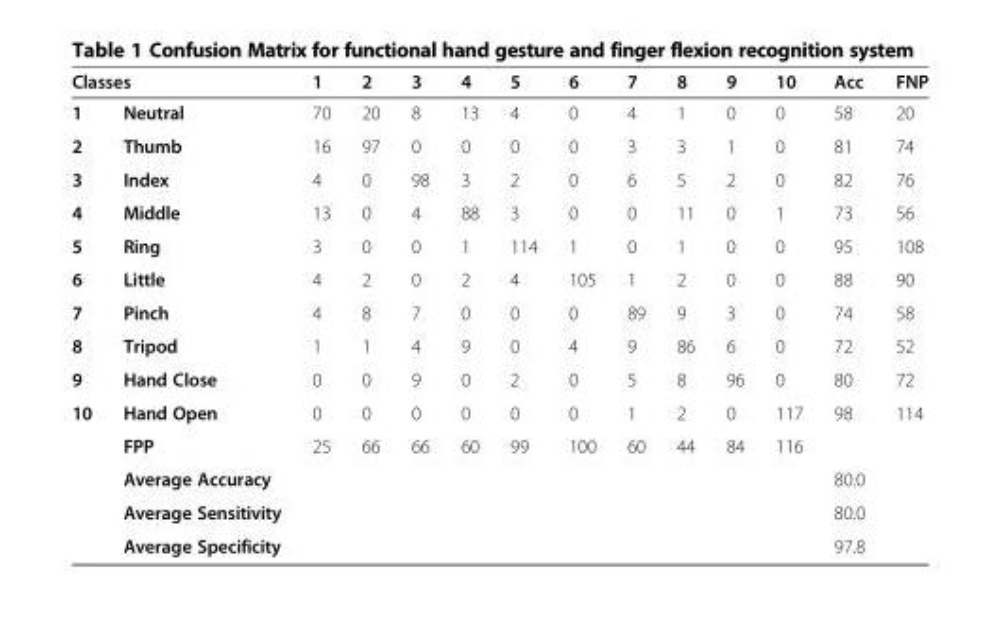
<table><thead><tr><td colspan="2">Classes</td><td rowspan="2">1 70</td><td rowspan="2">2 20</td><td rowspan="2">3 8</td><td rowspan="2">4 13</td><td rowspan="2">5 4</td><td rowspan="2">6 0</td><td rowspan="2">7 4</td><td rowspan="2">8 1</td><td rowspan="2">9 0</td><td rowspan="2">10 0</td><td rowspan="2">Acc 58</td><td rowspan="2">FNP 20</td></tr><tr><td>1</td><td>Neutral</td></tr></thead><tbody><tr><td>2</td><td>Thumb</td><td>16</td><td>97</td><td>0</td><td>0</td><td>0</td><td>0</td><td>3</td><td>3</td><td>1</td><td>0</td><td>81</td><td>74</td></tr><tr><td>3</td><td>Index</td><td>4</td><td>0</td><td>98</td><td>3</td><td>2</td><td>0</td><td>6</td><td>5</td><td>2</td><td>0</td><td>82</td><td>76</td></tr><tr><td>4</td><td>Middle</td><td>13</td><td>0</td><td>4</td><td>88</td><td>3</td><td>0</td><td>0</td><td>11</td><td>0</td><td>1</td><td>73</td><td>56</td></tr><tr><td>5</td><td>Ring</td><td>3</td><td>0</td><td>0</td><td>1</td><td>114</td><td>1</td><td>0</td><td>1</td><td>0</td><td>0</td><td>95</td><td>108</td></tr><tr><td>6</td><td>Little</td><td>4</td><td>2</td><td>0</td><td>2</td><td>4</td><td>105</td><td>1</td><td>2</td><td>0</td><td>0</td><td>88</td><td>90</td></tr><tr><td>7</td><td>Pinch</td><td>4</td><td>8</td><td>7</td><td>0</td><td>0</td><td>0</td><td>89</td><td>9</td><td>3</td><td>0</td><td>74</td><td>58</td></tr><tr><td>8</td><td>Tripod</td><td>1</td><td>1</td><td>4</td><td>9</td><td>0</td><td>4</td><td>9</td><td>86</td><td>6</td><td>0</td><td>72</td><td>52</td></tr><tr><td>9</td><td>Hand Close</td><td>0</td><td>0</td><td>9</td><td>0</td><td>2</td><td>0</td><td>5</td><td>8</td><td>96</td><td>0</td><td>80</td><td>72</td></tr><tr><td rowspan="5">10</td><td>Hand Open</td><td>0</td><td>0</td><td>0</td><td>0</td><td>0</td><td>0</td><td>1</td><td>2</td><td>0</td><td>117</td><td>98</td><td>114</td></tr><tr><td>FPP</td><td>25</td><td>66</td><td>66</td><td>60</td><td>99</td><td>100</td><td>60</td><td>44</td><td>84</td><td>116</td><td></td><td></td></tr><tr><td>Average Accuracy</td><td></td><td></td><td></td><td></td><td></td><td></td><td></td><td></td><td></td><td></td><td>80.0</td><td></td></tr><tr><td>Average Sensitivity</td><td></td><td></td><td></td><td></td><td></td><td></td><td></td><td></td><td></td><td></td><td>80.0</td><td></td></tr><tr><td>Average Specificity</td><td></td><td></td><td></td><td></td><td></td><td></td><td></td><td></td><td></td><td></td><td>97.8</td><td></td></tr></tbody></table>